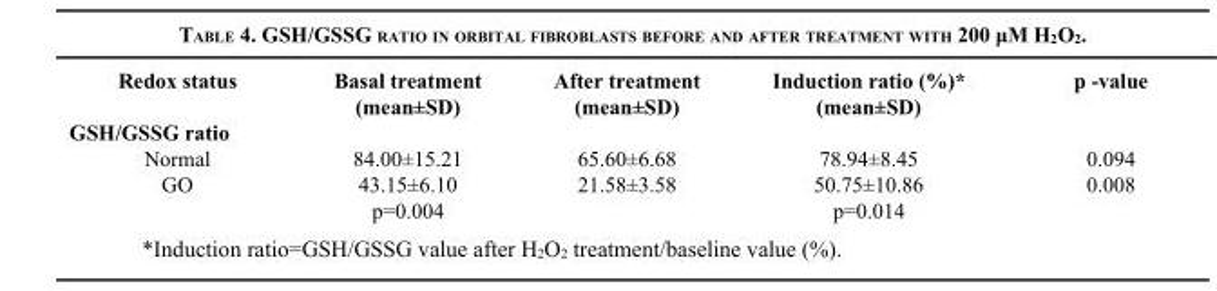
<table><thead><tr><td>Redox status</td><td>Basal treatment (mean±SD)</td><td>After treatment (mean±SD)</td><td>Induction ratio (%)* (mean±SD)</td><td>p -value</td></tr></thead><tbody><tr><td colspan="5">GSH/GSSG ratio</td></tr><tr><td>Normal</td><td>84.00±15.21</td><td>65.60±6.68</td><td>78.94±8.45</td><td>0.094</td></tr><tr><td rowspan="2">GO</td><td>43.15±6.10</td><td>21.58±3.58</td><td>50.75±10.86</td><td>0.008</td></tr><tr><td>p=0.004</td><td></td><td>p=0.014</td><td></td></tr></tbody></table>